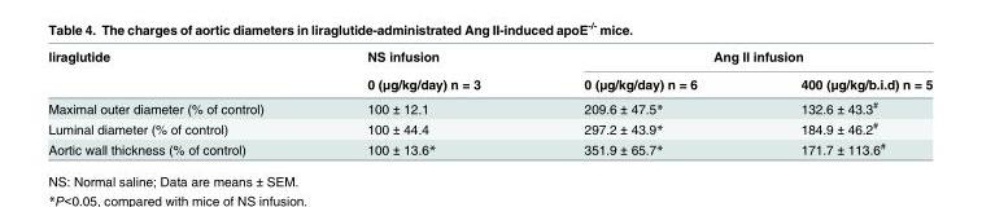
<table><thead><tr><td rowspan="2">liraglutide</td><td rowspan="2">NS infusion 0 (μg/kg/day) n = 3</td><td colspan="2">Ang II infusion</td></tr><tr><td>0 (μg/kg/day) n = 6</td><td>400 (μg/kg/b.i.d) n = 5</td></tr></thead><tbody><tr><td>Maximal outer diameter (% of control)</td><td>100 ± 12.1</td><td>209.6 ± 47.5*</td><td>132.6 ± 43.3<sup>#</sup></td></tr><tr><td>Luminal diameter (% of control)</td><td>100 ± 44.4</td><td>297.2 ± 43.9*</td><td>184.9 ± 46.2<sup>#</sup></td></tr><tr><td>Aortic wall thickness (% of control)</td><td>100 ± 13.6*</td><td>351.9 ± 65.7*</td><td>171.7 ± 113.6<sup>#</sup></td></tr></tbody></table>